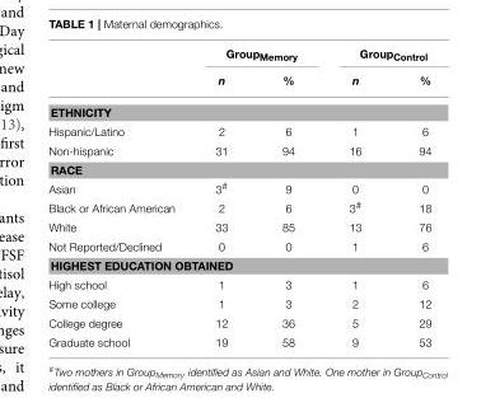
<table><thead><tr><td rowspan="2"></td><td colspan="2">Group<sub>Memory</sub></td><td colspan="2">Group<sub>Control</sub></td></tr><tr><td>n</td><td>%</td><td>n</td><td>%</td></tr></thead><tbody><tr><td colspan="5">ETHNICITY</td></tr><tr><td>Hispanic/Latino</td><td>2</td><td>6</td><td>1</td><td>6</td></tr><tr><td>Non-hispanic</td><td>31</td><td>94</td><td>16</td><td>94</td></tr><tr><td colspan="5">RACE</td></tr><tr><td>Asian</td><td>3<sup>#</sup></td><td>9</td><td>0</td><td>0</td></tr><tr><td>Black or African American</td><td>2</td><td>6</td><td>3<sup>#</sup></td><td>18</td></tr><tr><td>White</td><td>33</td><td>85</td><td>13</td><td>76</td></tr><tr><td>Not Reported/Declined</td><td>0</td><td>0</td><td>1</td><td>6</td></tr><tr><td colspan="5">HIGHEST EDUCATION OBTAINED</td></tr><tr><td>High school</td><td>1</td><td>3</td><td>1</td><td>6</td></tr><tr><td>Some college</td><td>1</td><td>3</td><td>2</td><td>12</td></tr><tr><td>College degree</td><td>12</td><td>36</td><td>5</td><td>29</td></tr><tr><td>Graduate school</td><td>19</td><td>58</td><td>9</td><td>53</td></tr></tbody></table>